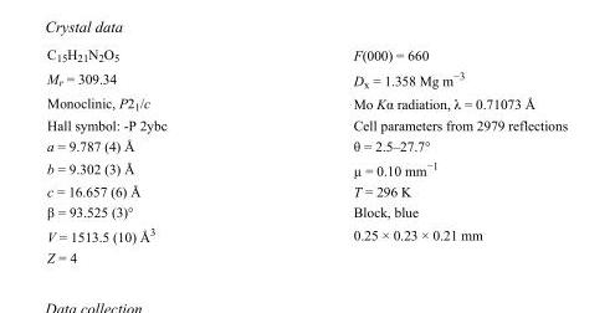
<table><tbody><tr><td>C<sub>15</sub>H<sub>21</sub>N<sub>2</sub>O<sub>5</sub></td><td>F(000) = 660</td></tr><tr><td>M<sub>r</sub> = 309.34</td><td>D<sub>x</sub> = 1.358 Mg m<sup>−3</sup></td></tr><tr><td>Monoclinic, P2<sub>1</sub>/c</td><td>Mo Kα radiation, λ = 0.71073 Å</td></tr><tr><td>Hall symbol: -P 2ybc</td><td>Cell parameters from 2979 reflections</td></tr><tr><td>a = 9.787 (4) Å</td><td>θ = 2.5–27.7°</td></tr><tr><td>b = 9.302 (3) Å</td><td>µ = 0.10 mm<sup>−1</sup></td></tr><tr><td>c = 16.657 (6) Å</td><td>T = 296 K</td></tr><tr><td>β = 93.525 (3)°</td><td>Block, blue</td></tr><tr><td>V = 1513.5 (10) Å<sup>3</sup></td><td>0.25 × 0.23 × 0.21 mm</td></tr><tr><td>Z = 4</td><td></td></tr></tbody></table>